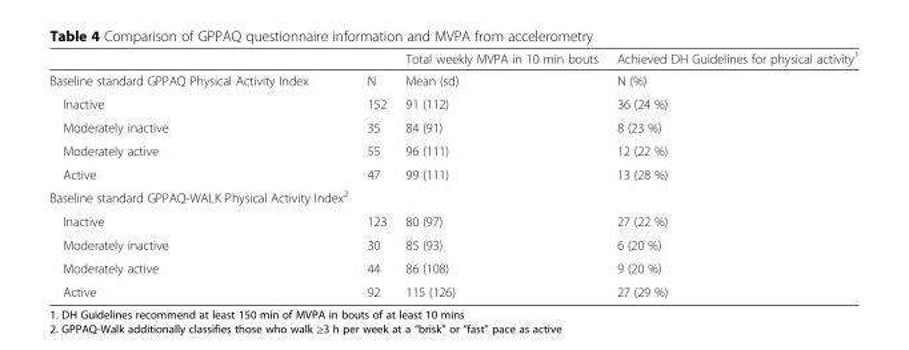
<table><thead><tr><td></td><td></td><td>Total weekly MVPA in 10 min bouts</td><td>Achieved DH Guidelines for physical activity<sup>1</sup></td></tr></thead><tbody><tr><td>Baseline standard GPPAQ Physical Activity Index</td><td>N</td><td>Mean (sd)</td><td>N (%)</td></tr><tr><td>Inactive</td><td>152</td><td>91 (112)</td><td>36 (24 %)</td></tr><tr><td>Moderately inactive</td><td>35</td><td>84 (91)</td><td>8 (23 %)</td></tr><tr><td>Moderately active</td><td>55</td><td>96 (111)</td><td>12 (22 %)</td></tr><tr><td>Active</td><td>47</td><td>99 (111)</td><td>13 (28 %)</td></tr><tr><td colspan="4">Baseline standard GPPAQ-WALK Physical Activity Index<sup>2</sup></td></tr><tr><td>Inactive</td><td>123</td><td>80 (97)</td><td>27 (22 %)</td></tr><tr><td>Moderately inactive</td><td>30</td><td>85 (93)</td><td>6 (20 %)</td></tr><tr><td>Moderately active</td><td>44</td><td>86 (108)</td><td>9 (20 %)</td></tr><tr><td>Active</td><td>92</td><td>115 (126)</td><td>27 (29 %)</td></tr></tbody></table>